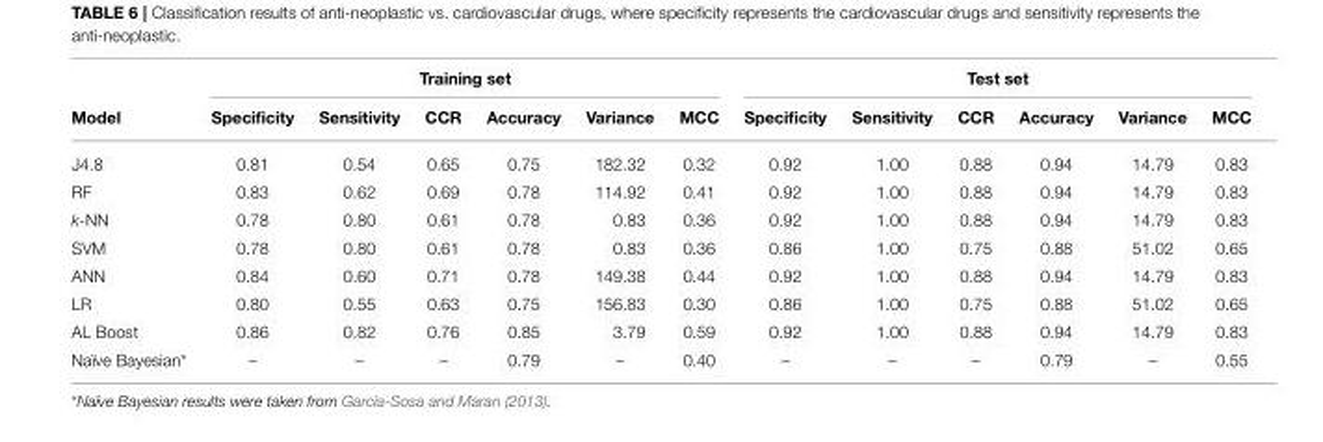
<table><thead><tr><td rowspan="2">Model</td><td colspan="6">Training set</td><td colspan="6">Test set</td></tr><tr><td>Specificity</td><td>Sensitivity</td><td>CCR</td><td>Accuracy</td><td>Variance</td><td>MCC</td><td>Specificity</td><td>Sensitivity</td><td>CCR</td><td>Accuracy</td><td>Variance</td><td>MCC</td></tr></thead><tbody><tr><td>J4.8</td><td>0.81</td><td>0.54</td><td>0.65</td><td>0.75</td><td>182.32</td><td>0.32</td><td>0.92</td><td>1.00</td><td>0.88</td><td>0.94</td><td>14.79</td><td>0.83</td></tr><tr><td>RF</td><td>0.83</td><td>0.62</td><td>0.69</td><td>0.78</td><td>114.92</td><td>0.41</td><td>0.92</td><td>1.00</td><td>0.88</td><td>0.94</td><td>14.79</td><td>0.83</td></tr><tr><td>k-NN</td><td>0.78</td><td>0.80</td><td>0.61</td><td>0.78</td><td>0.83</td><td>0.36</td><td>0.92</td><td>1.00</td><td>0.88</td><td>0.94</td><td>14.79</td><td>0.83</td></tr><tr><td>SVM</td><td>0.78</td><td>0.80</td><td>0.61</td><td>0.78</td><td>0.83</td><td>0.36</td><td>0.86</td><td>1.00</td><td>0.75</td><td>0.88</td><td>51.02</td><td>0.65</td></tr><tr><td>ANN</td><td>0.84</td><td>0.60</td><td>0.71</td><td>0.78</td><td>149.38</td><td>0.44</td><td>0.92</td><td>1.00</td><td>0.88</td><td>0.94</td><td>14.79</td><td>0.83</td></tr><tr><td>LR</td><td>0.80</td><td>0.55</td><td>0.63</td><td>0.75</td><td>156.83</td><td>0.30</td><td>0.86</td><td>1.00</td><td>0.75</td><td>0.88</td><td>51.02</td><td>0.65</td></tr><tr><td>AL Boost</td><td>0.86</td><td>0.82</td><td>0.76</td><td>0.85</td><td>3.79</td><td>0.59</td><td>0.92</td><td>1.00</td><td>0.88</td><td>0.94</td><td>14.79</td><td>0.83</td></tr><tr><td>Naïve Bayesian*</td><td>–</td><td>–</td><td>–</td><td>0.79</td><td>–</td><td>0.40</td><td>–</td><td>–</td><td>–</td><td>0.79</td><td>–</td><td>0.55</td></tr></tbody></table>